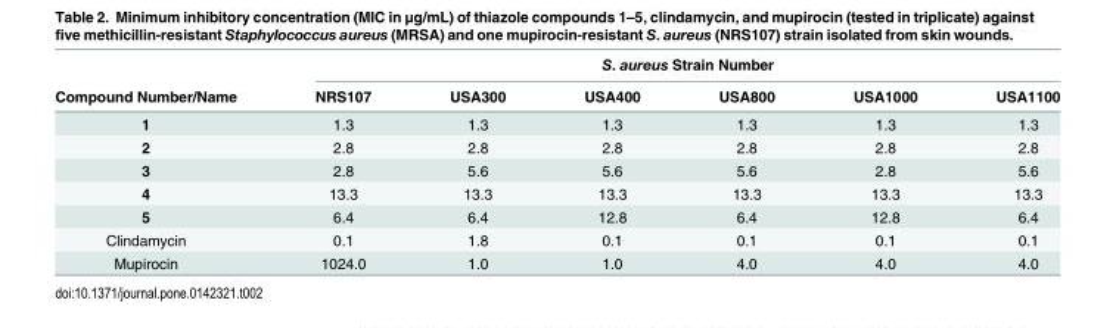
<table><thead><tr><td rowspan="2">Compound Number/Name</td><td colspan="6">S. aureus Strain Number</td></tr><tr><td>NRS107</td><td>USA300</td><td>USA400</td><td>USA800</td><td>USA1000</td><td>USA1100</td></tr></thead><tbody><tr><td>1</td><td>1.3</td><td>1.3</td><td>1.3</td><td>1.3</td><td>1.3</td><td>1.3</td></tr><tr><td>2</td><td>2.8</td><td>2.8</td><td>2.8</td><td>2.8</td><td>2.8</td><td>2.8</td></tr><tr><td>3</td><td>2.8</td><td>5.6</td><td>5.6</td><td>5.6</td><td>2.8</td><td>5.6</td></tr><tr><td>4</td><td>13.3</td><td>13.3</td><td>13.3</td><td>13.3</td><td>13.3</td><td>13.3</td></tr><tr><td>5</td><td>6.4</td><td>6.4</td><td>12.8</td><td>6.4</td><td>12.8</td><td>6.4</td></tr><tr><td>Clindamycin</td><td>0.1</td><td>1.8</td><td>0.1</td><td>0.1</td><td>0.1</td><td>0.1</td></tr><tr><td>Mupirocin</td><td>1024.0</td><td>1.0</td><td>1.0</td><td>4.0</td><td>4.0</td><td>4.0</td></tr></tbody></table>